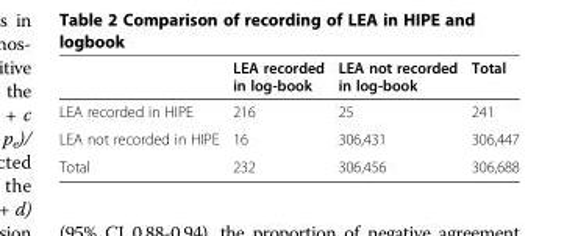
<table><thead><tr><td></td><td>LEA recorded in log-book</td><td>LEA not recorded in log-book</td><td>Total</td></tr></thead><tbody><tr><td>LEA recorded in HIPE</td><td>216</td><td>25</td><td>241</td></tr><tr><td>LEA not recorded in HIPE</td><td>16</td><td>306,431</td><td>306,447</td></tr><tr><td>Total</td><td>232</td><td>306,456</td><td>306,688</td></tr></tbody></table>